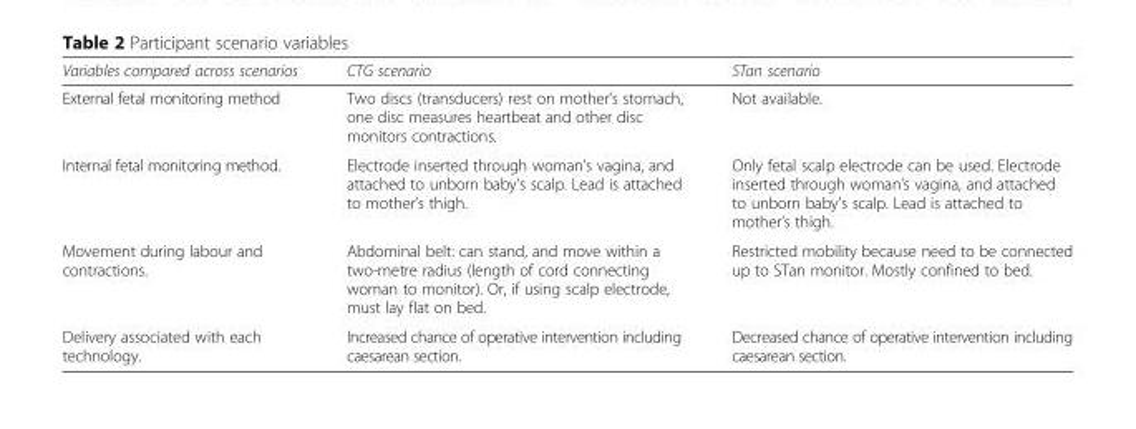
<table><thead><tr><td>Variables compared across scenarios</td><td>CTG scenario</td><td>STan scenario</td></tr></thead><tbody><tr><td>External fetal monitoring method</td><td>Two discs (transducers) rest on mother’s stomach, one disc measures heartbeat and other disc monitors contractions.</td><td>Not available.</td></tr><tr><td>Internal fetal monitoring method.</td><td>Electrode inserted through woman’s vagina, and attached to unborn baby’s scalp. Lead is attached to mother’s thigh.</td><td>Only fetal scalp electrode can be used. Electrode inserted through woman’s vagina, and attached to unborn baby’s scalp. Lead is attached to mother’s thigh.</td></tr><tr><td>Movement during labour and contractions.</td><td>Abdominal belt: can stand, and move within a two-metre radius (length of cord connecting woman to monitor). Or, if using scalp electrode, must lay flat on bed.</td><td>Restricted mobility because need to be connected up to STan monitor. Mostly confined to bed.</td></tr><tr><td>Delivery associated with each technology.</td><td>Increased chance of operative intervention including caesarean section.</td><td>Decreased chance of operative intervention including caesarean section.</td></tr></tbody></table>